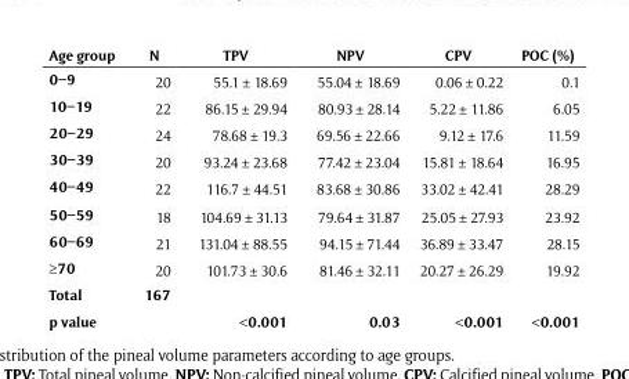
<table><thead><tr><td>Age group</td><td>N</td><td>TPV</td><td>NPV</td><td>CPV</td><td>POC (%)</td></tr></thead><tbody><tr><td>0–9</td><td>20</td><td>55.1 ± 18.69</td><td>55.04 ± 18.69</td><td>0.06 ± 0.22</td><td>0.1</td></tr><tr><td>10–19</td><td>22</td><td>86.15 ± 29.94</td><td>80.93 ± 28.14</td><td>5.22 ± 11.86</td><td>6.05</td></tr><tr><td>20–29</td><td>24</td><td>78.68 ± 19.3</td><td>69.56 ± 22.66</td><td>9.12 ± 17.6</td><td>11.59</td></tr><tr><td>30–39</td><td>20</td><td>93.24 ± 23.68</td><td>77.42 ± 23.04</td><td>15.81 ± 18.64</td><td>16.95</td></tr><tr><td>40–49</td><td>22</td><td>116.7 ± 44.51</td><td>83.68 ± 30.86</td><td>33.02 ± 42.41</td><td>28.29</td></tr><tr><td>50–59</td><td>18</td><td>104.69 ± 31.13</td><td>79.64 ± 31.87</td><td>25.05 ± 27.93</td><td>23.92</td></tr><tr><td>60–69</td><td>21</td><td>131.04 ± 88.55</td><td>94.15 ± 71.44</td><td>36.89 ± 33.47</td><td>28.15</td></tr><tr><td>≥70</td><td>20</td><td>101.73 ± 30.6</td><td>81.46 ± 32.11</td><td>20.27 ± 26.29</td><td>19.92</td></tr><tr><td>Total</td><td>167</td><td></td><td></td><td></td><td></td></tr><tr><td>p value</td><td></td><td>&lt;0.001</td><td>0.03</td><td>&lt;0.001</td><td>&lt;0.001</td></tr></tbody></table>